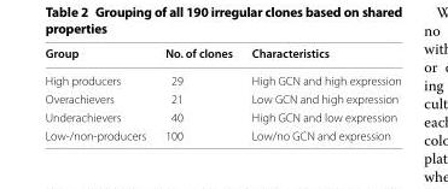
<table><thead><tr><td>Group</td><td>No. of clones</td><td>Characteristics</td></tr></thead><tbody><tr><td>High producers</td><td>29</td><td>High GCN and high expression</td></tr><tr><td>Overachievers</td><td>21</td><td>Low GCN and high expression</td></tr><tr><td>Underachievers</td><td>40</td><td>High GCN and low expression</td></tr><tr><td>Low‑/non‑producers</td><td>100</td><td>Low/no GCN and expression</td></tr></tbody></table>